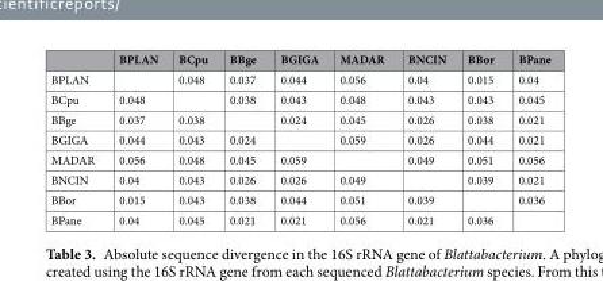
<table><thead><tr><td></td><td>BPLAN</td><td>BCpu</td><td>BBge</td><td>BGIGA</td><td>MADAR</td><td>BNCIN</td><td>BBor</td><td>BPane</td></tr></thead><tbody><tr><td>BPLAN</td><td></td><td>0.048</td><td>0.037</td><td>0.044</td><td>0.056</td><td>0.04</td><td>0.015</td><td>0.04</td></tr><tr><td>BCpu</td><td>0.048</td><td></td><td>0.038</td><td>0.043</td><td>0.048</td><td>0.043</td><td>0.043</td><td>0.045</td></tr><tr><td>BBge</td><td>0.037</td><td>0.038</td><td></td><td>0.024</td><td>0.045</td><td>0.026</td><td>0.038</td><td>0.021</td></tr><tr><td>BGIGA</td><td>0.044</td><td>0.043</td><td>0.024</td><td></td><td>0.059</td><td>0.026</td><td>0.044</td><td>0.021</td></tr><tr><td>MADAR</td><td>0.056</td><td>0.048</td><td>0.045</td><td>0.059</td><td></td><td>0.049</td><td>0.051</td><td>0.056</td></tr><tr><td>BNCIN</td><td>0.04</td><td>0.043</td><td>0.026</td><td>0.026</td><td>0.049</td><td></td><td>0.039</td><td>0.021</td></tr><tr><td>BBor</td><td>0.015</td><td>0.043</td><td>0.038</td><td>0.044</td><td>0.051</td><td>0.039</td><td></td><td>0.036</td></tr><tr><td>BPane</td><td>0.04</td><td>0.045</td><td>0.021</td><td>0.021</td><td>0.056</td><td>0.021</td><td>0.036</td><td></td></tr></tbody></table>